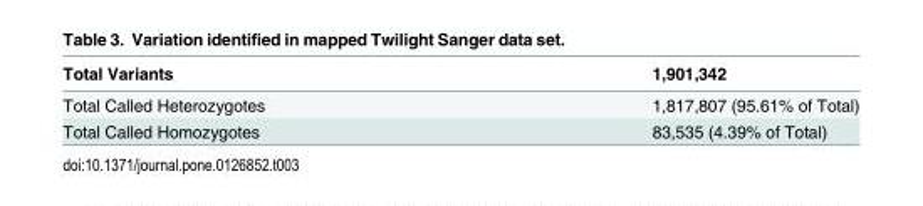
<table><thead><tr><td>Total Variants</td><td>1,901,342</td></tr></thead><tbody><tr><td>Total Called Heterozygotes</td><td>1,817,807 (95.61% of Total)</td></tr><tr><td>Total Called Homozygotes</td><td>83,535 (4.39% of Total)</td></tr></tbody></table>